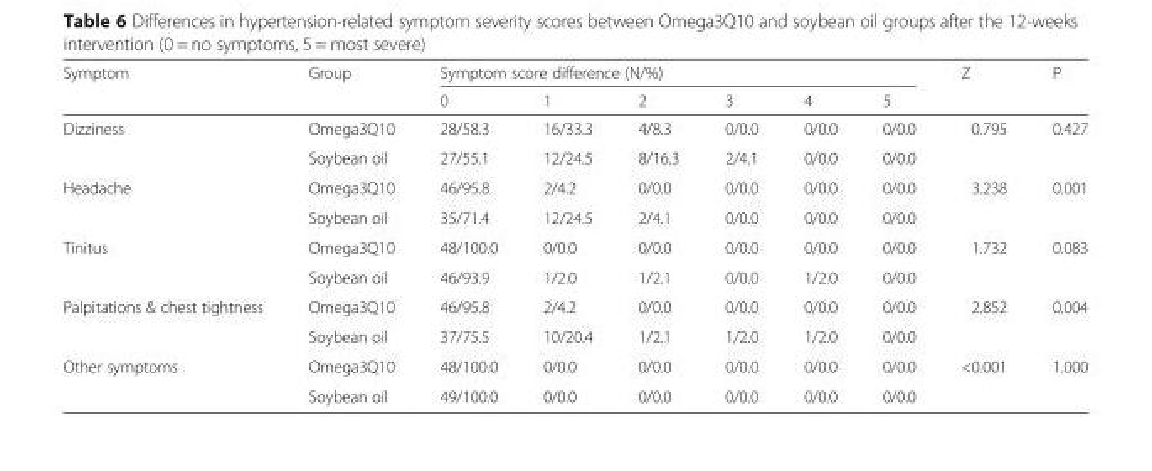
<table><thead><tr><td rowspan="2">Symptom</td><td rowspan="2">Group</td><td colspan="6">Symptom score difference (N/%)</td><td rowspan="2">Z</td><td rowspan="2">P</td></tr><tr><td>0</td><td>1</td><td>2</td><td>3</td><td>4</td><td>5</td></tr></thead><tbody><tr><td rowspan="2">Dizziness</td><td>Omega3Q10</td><td>28/58.3</td><td>16/33.3</td><td>4/8.3</td><td>0/0.0</td><td>0/0.0</td><td>0/0.0</td><td rowspan="2">0.795</td><td rowspan="2">0.427</td></tr><tr><td>Soybean oil</td><td>27/55.1</td><td>12/24.5</td><td>8/16.3</td><td>2/4.1</td><td>0/0.0</td><td>0/0.0</td></tr><tr><td rowspan="2">Headache</td><td>Omega3Q10</td><td>46/95.8</td><td>2/4.2</td><td>0/0.0</td><td>0/0.0</td><td>0/0.0</td><td>0/0.0</td><td rowspan="2">3.238</td><td rowspan="2">0.001</td></tr><tr><td>Soybean oil</td><td>35/71.4</td><td>12/24.5</td><td>2/4.1</td><td>0/0.0</td><td>0/0.0</td><td>0/0.0</td></tr><tr><td rowspan="2">Tinitus</td><td>Omega3Q10</td><td>48/100.0</td><td>0/0.0</td><td>0/0.0</td><td>0/0.0</td><td>0/0.0</td><td>0/0.0</td><td rowspan="2">1.732</td><td rowspan="2">0.083</td></tr><tr><td>Soybean oil</td><td>46/93.9</td><td>1/2.0</td><td>1/2.1</td><td>0/0.0</td><td>1/2.0</td><td>0/0.0</td></tr><tr><td rowspan="2">Palpitations &amp; chest tightness</td><td>Omega3Q10</td><td>46/95.8</td><td>2/4.2</td><td>0/0.0</td><td>0/0.0</td><td>0/0.0</td><td>0/0.0</td><td rowspan="2">2.852</td><td rowspan="2">0.004</td></tr><tr><td>Soybean oil</td><td>37/75.5</td><td>10/20.4</td><td>1/2.1</td><td>1/2.0</td><td>1/2.0</td><td>0/0.0</td></tr><tr><td rowspan="2">Other symptoms</td><td>Omega3Q10</td><td>48/100.0</td><td>0/0.0</td><td>0/0.0</td><td>0/0.0</td><td>0/0.0</td><td>0/0.0</td><td rowspan="2">&lt;0.001</td><td rowspan="2">1.000</td></tr><tr><td>Soybean oil</td><td>49/100.0</td><td>0/0.0</td><td>0/0.0</td><td>0/0.0</td><td>0/0.0</td><td>0/0.0</td></tr></tbody></table>